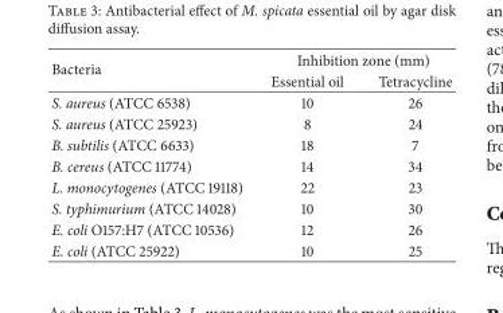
<table><thead><tr><td rowspan="2">Bacteria</td><td colspan="2">Inhibition zone (mm)</td></tr><tr><td>Essential oil</td><td>Tetracycline</td></tr></thead><tbody><tr><td>S. aureus (ATCC 6538)</td><td>10</td><td>26</td></tr><tr><td>S. aureus (ATCC 25923)</td><td>8</td><td>24</td></tr><tr><td>B. subtilis (ATCC 6633)</td><td>18</td><td>7</td></tr><tr><td>B. cereus (ATCC 11774)</td><td>14</td><td>34</td></tr><tr><td>L. monocytogenes (ATCC 19118)</td><td>22</td><td>23</td></tr><tr><td>S. typhimurium (ATCC 14028)</td><td>10</td><td>30</td></tr><tr><td>E. coli O157:H7 (ATCC 10536)</td><td>12</td><td>26</td></tr><tr><td>E. coli (ATCC 25922)</td><td>10</td><td>25</td></tr></tbody></table>